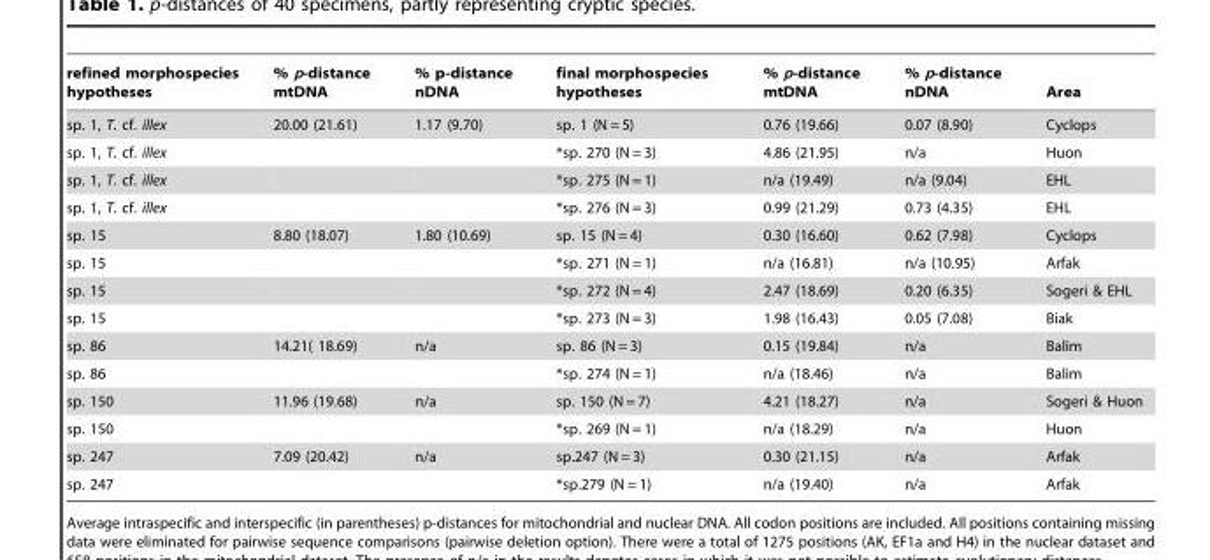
<table><thead><tr><td>refined morphospecies hypotheses</td><td>% p-distance mtDNA</td><td>% p-distance nDNA</td><td>final morphospecies hypotheses</td><td>% p-distance mtDNA</td><td>% p-distance nDNA</td><td>Area</td></tr></thead><tbody><tr><td>sp. 1, T. cf. illex</td><td>20.00 (21.61)</td><td>1.17 (9.70)</td><td>sp. 1 (N = 5)</td><td>0.76 (19.66)</td><td>0.07 (8.90)</td><td>Cyclops</td></tr><tr><td>sp. 1, T. cf. illex</td><td></td><td></td><td>*sp. 270 (N = 3)</td><td>4.86 (21.95)</td><td>n/a</td><td>Huon</td></tr><tr><td>sp. 1, T. cf. illex</td><td></td><td></td><td>*sp. 275 (N = 1)</td><td>n/a (19.49)</td><td>n/a (9.04)</td><td>EHL</td></tr><tr><td>sp. 1, T. cf. illex</td><td></td><td></td><td>*sp. 276 (N = 3)</td><td>0.99 (21.29)</td><td>0.73 (4.35)</td><td>EHL</td></tr><tr><td>sp. 15</td><td>8.80 (18.07)</td><td>1.80 (10.69)</td><td>sp. 15 (N = 4)</td><td>0.30 (16.60)</td><td>0.62 (7.98)</td><td>Cyclops</td></tr><tr><td>sp. 15</td><td></td><td></td><td>*sp. 271 (N = 1)</td><td>n/a (16.81)</td><td>n/a (10.95)</td><td>Arfak</td></tr><tr><td>sp. 15</td><td></td><td></td><td>*sp. 272 (N = 4)</td><td>2.47 (18.69)</td><td>0.20 (6.35)</td><td>Sogeri &amp; EHL</td></tr><tr><td>sp. 15</td><td></td><td></td><td>*sp. 273 (N = 3)</td><td>1.98 (16.43)</td><td>0.05 (7.08)</td><td>Biak</td></tr><tr><td>sp. 86</td><td>14.21( 18.69)</td><td>n/a</td><td>sp. 86 (N = 3)</td><td>0.15 (19.84)</td><td>n/a</td><td>Balim</td></tr><tr><td>sp. 86</td><td></td><td></td><td>*sp. 274 (N = 1)</td><td>n/a (18.46)</td><td>n/a</td><td>Balim</td></tr><tr><td>sp. 150</td><td>11.96 (19.68)</td><td>n/a</td><td>sp. 150 (N = 7)</td><td>4.21 (18.27)</td><td>n/a</td><td>Sogeri &amp; Huon</td></tr><tr><td>sp. 150</td><td></td><td></td><td>*sp. 269 (N = 1)</td><td>n/a (18.29)</td><td>n/a</td><td>Huon</td></tr><tr><td>sp. 247</td><td>7.09 (20.42)</td><td>n/a</td><td>sp.247 (N = 3)</td><td>0.30 (21.15)</td><td>n/a</td><td>Arfak</td></tr><tr><td>sp. 247</td><td></td><td></td><td>*sp.279 (N = 1)</td><td>n/a (19.40)</td><td>n/a</td><td>Arfak</td></tr></tbody></table>